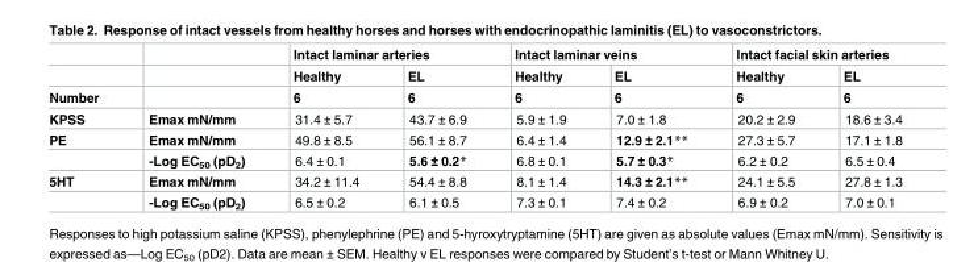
<table><thead><tr><td rowspan="3">Number</td><td rowspan="3"></td><td colspan="2">Intact laminar arteries</td><td colspan="2">Intact laminar veins</td><td colspan="2">Intact facial skin arteries</td></tr><tr><td rowspan="2">Healthy 6</td><td rowspan="2">EL 6</td><td rowspan="2">Healthy 6</td><td rowspan="2">EL 6</td><td rowspan="2">Healthy 6</td><td rowspan="2">EL 6</td></tr><tr></tr></thead><tbody><tr><td>KPSS</td><td>Emax mN/mm</td><td>31.4 ± 5.7</td><td>43.7 ± 6.9</td><td>5.9 ± 1.9</td><td>7.0 ± 1.8</td><td>20.2 ± 2.9</td><td>18.6 ± 3.4</td></tr><tr><td rowspan="2">PE</td><td>Emax mN/mm</td><td>49.8 ± 8.5</td><td>56.1 ± 8.7</td><td>6.4 ± 1.4</td><td>12.9 ± 2.1**</td><td>27.3 ± 5.7</td><td>17.1 ± 1.8</td></tr><tr><td>-Log EC<sub>50</sub> (pD<sub>2</sub>)</td><td>6.4 ± 0.1</td><td>5.6 ± 0.2*</td><td>6.8 ± 0.1</td><td>5.7 ± 0.3*</td><td>6.2 ± 0.2</td><td>6.5 ± 0.4</td></tr><tr><td rowspan="2">5HT</td><td>Emax mN/mm</td><td>34.2 ± 11.4</td><td>54.4 ± 8.8</td><td>8.1 ± 1.4</td><td>14.3 ± 2.1**</td><td>24.1 ± 5.5</td><td>27.8 ± 1.3</td></tr><tr><td>-Log EC<sub>50</sub> (pD<sub>2</sub>)</td><td>6.5 ± 0.2</td><td>6.1 ± 0.5</td><td>7.3 ± 0.1</td><td>7.4 ± 0.2</td><td>6.9 ± 0.2</td><td>7.0 ± 0.1</td></tr></tbody></table>